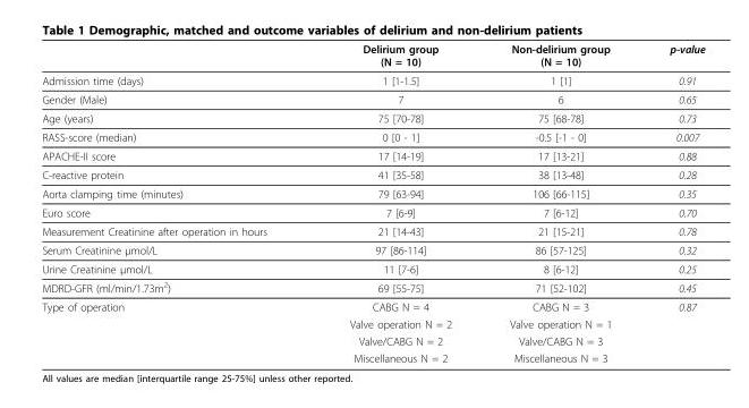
<table><thead><tr><td></td><td>Delirium group (N = 10)</td><td>Non-delirium group (N = 10)</td><td>p-value</td></tr></thead><tbody><tr><td>Admission time (days)</td><td>1 [1-1.5]</td><td>1 [1]</td><td>0.91</td></tr><tr><td>Gender (Male)</td><td>7</td><td>6</td><td>0.65</td></tr><tr><td>Age (years)</td><td>75 [70-78]</td><td>75 [68-78]</td><td>0.73</td></tr><tr><td>RASS-score (median)</td><td>0 [0 - 1]</td><td>-0.5 [-1 - 0]</td><td>0.007</td></tr><tr><td>APACHE-II score</td><td>17 [14-19]</td><td>17 [13-21]</td><td>0.88</td></tr><tr><td>C-reactive protein</td><td>41 [35-58]</td><td>38 [13-48]</td><td>0.28</td></tr><tr><td>Aorta clamping time (minutes)</td><td>79 [63-94]</td><td>106 [66-115]</td><td>0.35</td></tr><tr><td>Euro score</td><td>7 [6-9]</td><td>7 [6-12]</td><td>0.70</td></tr><tr><td>Measurement Creatinine after operation in hours</td><td>21 [14-43]</td><td>21 [15-21]</td><td>0.78</td></tr><tr><td>Serum Creatinine μmol/L</td><td>97 [86-114]</td><td>86 [57-125]</td><td>0.32</td></tr><tr><td>Urine Creatinine μmol/L</td><td>11 [7-6]</td><td>8 [6-12]</td><td>0.25</td></tr><tr><td>MDRD-GFR (ml/min/1.73m<sup>2</sup>)</td><td>69 [55-75]</td><td>71 [52-102]</td><td>0.45</td></tr><tr><td rowspan="4">Type of operation</td><td>CABG N = 4</td><td>CABG N = 3</td><td>0.87</td></tr><tr><td>Valve operation N = 2</td><td>Valve operation N = 1</td><td></td></tr><tr><td>Valve/CABG N = 2</td><td>Valve/CABG N = 3</td><td></td></tr><tr><td>Miscellaneous N = 2</td><td>Miscellaneous N = 3</td><td></td></tr></tbody></table>